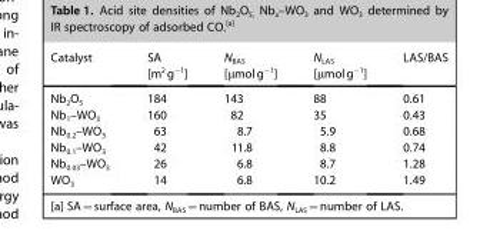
<table><thead><tr><td>Catalyst</td><td>SA [m<sup>2</sup>g<sup>−1</sup>]</td><td>N<sub>BAS</sub> [μmolg<sup>−1</sup>]</td><td>N<sub>LAS</sub> [μmolg<sup>−1</sup>]</td><td>LAS/BAS</td></tr></thead><tbody><tr><td>Nb<sub>2</sub>O<sub>5</sub></td><td>184</td><td>143</td><td>88</td><td>0.61</td></tr><tr><td>Nb<sub>1</sub>–WO<sub>3</sub></td><td>160</td><td>82</td><td>35</td><td>0.43</td></tr><tr><td>Nb<sub>0.2</sub>–WO<sub>3</sub></td><td>63</td><td>8.7</td><td>5.9</td><td>0.68</td></tr><tr><td>Nb<sub>0.1</sub>–WO<sub>3</sub></td><td>42</td><td>11.8</td><td>8.8</td><td>0.74</td></tr><tr><td>Nb<sub>0.03</sub>–WO<sub>3</sub></td><td>26</td><td>6.8</td><td>8.7</td><td>1.28</td></tr><tr><td>WO<sub>3</sub></td><td>14</td><td>6.8</td><td>10.2</td><td>1.49</td></tr></tbody></table>